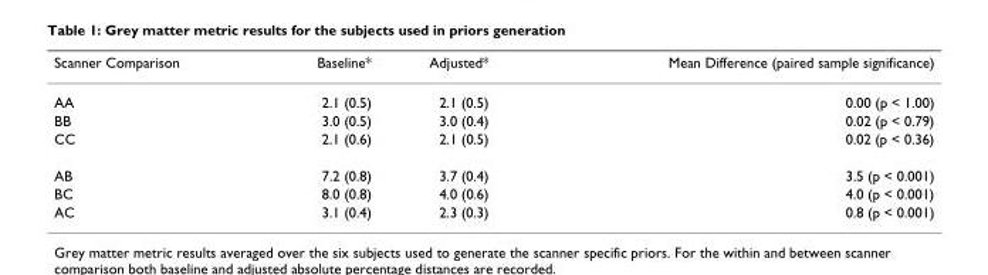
<table><thead><tr><td>Scanner Comparison</td><td>Baseline*</td><td>Adjusted*</td><td>Mean Difference (paired sample significance)</td></tr></thead><tbody><tr><td>AA</td><td>2.1 (0.5)</td><td>2.1 (0.5)</td><td>0.00 (p &lt; 1.00)</td></tr><tr><td>BB</td><td>3.0 (0.5)</td><td>3.0 (0.4)</td><td>0.02 (p &lt; 0.79)</td></tr><tr><td>CC</td><td>2.1 (0.6)</td><td>2.1 (0.5)</td><td>0.02 (p &lt; 0.36)</td></tr><tr><td>AB</td><td>7.2 (0.8)</td><td>3.7 (0.4)</td><td>3.5 (p &lt; 0.001)</td></tr><tr><td>BC</td><td>8.0 (0.8)</td><td>4.0 (0.6)</td><td>4.0 (p &lt; 0.001)</td></tr><tr><td>AC</td><td>3.1 (0.4)</td><td>2.3 (0.3)</td><td>0.8 (p &lt; 0.001)</td></tr></tbody></table>